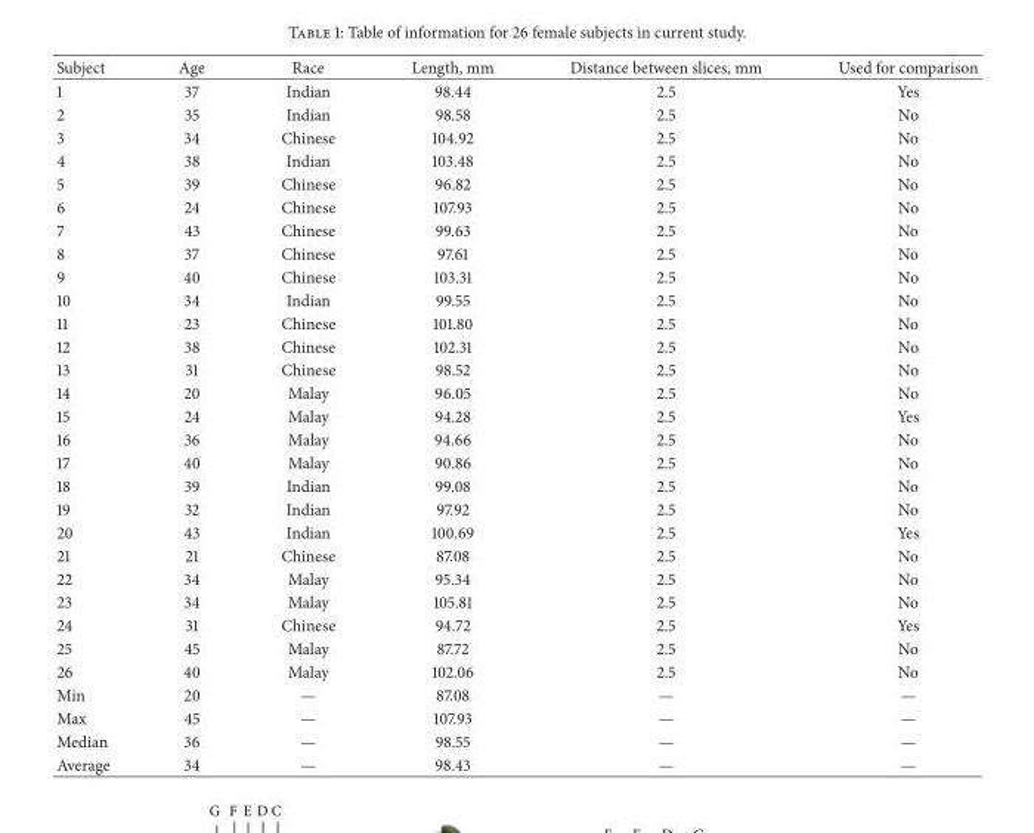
<table><thead><tr><td>Subject</td><td>Age</td><td>Race</td><td>Length, mm</td><td>Distance between slices, mm</td><td>Used for comparison</td></tr></thead><tbody><tr><td>1</td><td>37</td><td>Indian</td><td>98.44</td><td>2.5</td><td>Yes</td></tr><tr><td>2</td><td>35</td><td>Indian</td><td>98.58</td><td>2.5</td><td>No</td></tr><tr><td>3</td><td>34</td><td>Chinese</td><td>104.92</td><td>2.5</td><td>No</td></tr><tr><td>4</td><td>38</td><td>Indian</td><td>103.48</td><td>2.5</td><td>No</td></tr><tr><td>5</td><td>39</td><td>Chinese</td><td>96.82</td><td>2.5</td><td>No</td></tr><tr><td>6</td><td>24</td><td>Chinese</td><td>107.93</td><td>2.5</td><td>No</td></tr><tr><td>7</td><td>43</td><td>Chinese</td><td>99.63</td><td>2.5</td><td>No</td></tr><tr><td>8</td><td>37</td><td>Chinese</td><td>97.61</td><td>2.5</td><td>No</td></tr><tr><td>9</td><td>40</td><td>Chinese</td><td>103.31</td><td>2.5</td><td>No</td></tr><tr><td>10</td><td>34</td><td>Indian</td><td>99.55</td><td>2.5</td><td>No</td></tr><tr><td>11</td><td>23</td><td>Chinese</td><td>101.80</td><td>2.5</td><td>No</td></tr><tr><td>12</td><td>38</td><td>Chinese</td><td>102.31</td><td>2.5</td><td>No</td></tr><tr><td>13</td><td>31</td><td>Chinese</td><td>98.52</td><td>2.5</td><td>No</td></tr><tr><td>14</td><td>20</td><td>Malay</td><td>96.05</td><td>2.5</td><td>No</td></tr><tr><td>15</td><td>24</td><td>Malay</td><td>94.28</td><td>2.5</td><td>Yes</td></tr><tr><td>16</td><td>36</td><td>Malay</td><td>94.66</td><td>2.5</td><td>No</td></tr><tr><td>17</td><td>40</td><td>Malay</td><td>90.86</td><td>2.5</td><td>No</td></tr><tr><td>18</td><td>39</td><td>Indian</td><td>99.08</td><td>2.5</td><td>No</td></tr><tr><td>19</td><td>32</td><td>Indian</td><td>97.92</td><td>2.5</td><td>No</td></tr><tr><td>20</td><td>43</td><td>Indian</td><td>100.69</td><td>2.5</td><td>Yes</td></tr><tr><td>21</td><td>21</td><td>Chinese</td><td>87.08</td><td>2.5</td><td>No</td></tr><tr><td>22</td><td>34</td><td>Malay</td><td>95.34</td><td>2.5</td><td>No</td></tr><tr><td>23</td><td>34</td><td>Malay</td><td>105.81</td><td>2.5</td><td>No</td></tr><tr><td>24</td><td>31</td><td>Chinese</td><td>94.72</td><td>2.5</td><td>Yes</td></tr><tr><td>25</td><td>45</td><td>Malay</td><td>87.72</td><td>2.5</td><td>No</td></tr><tr><td>26</td><td>40</td><td>Malay</td><td>102.06</td><td>2.5</td><td>No</td></tr><tr><td>Min</td><td>20</td><td>—</td><td>87.08</td><td>—</td><td>—</td></tr><tr><td>Max</td><td>45</td><td>—</td><td>107.93</td><td>—</td><td>—</td></tr><tr><td>Median</td><td>36</td><td>—</td><td>98.55</td><td>—</td><td>—</td></tr><tr><td>Average</td><td>34</td><td>—</td><td>98.43</td><td>—</td><td>—</td></tr></tbody></table>